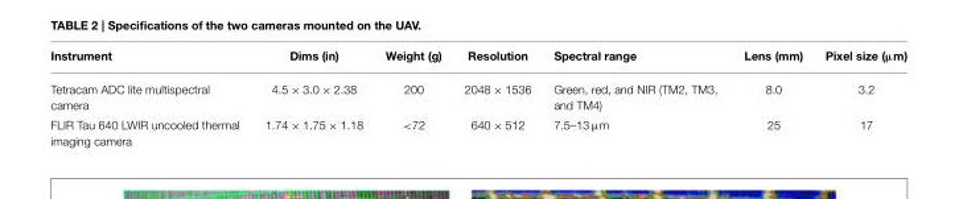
<table><thead><tr><td>Instrument</td><td>Dims (in)</td><td>Weight (g)</td><td>Resolution</td><td>Spectral range</td><td>Lens (mm)</td><td>Pixel size (µm)</td></tr></thead><tbody><tr><td>Tetracam ADC lite multispectral camera</td><td>4.5 × 3.0 × 2.38</td><td>200</td><td>2048 × 1536</td><td>Green, red, and NIR (TM2, TM3, and TM4)</td><td>8.0</td><td>3.2</td></tr><tr><td>FLIR Tau 640 LWIR uncooled thermal imaging camera</td><td>1.74 × 1.75 × 1.18</td><td>&lt;72</td><td>640 × 512</td><td>7.5–13 µm</td><td>25</td><td>17</td></tr></tbody></table>